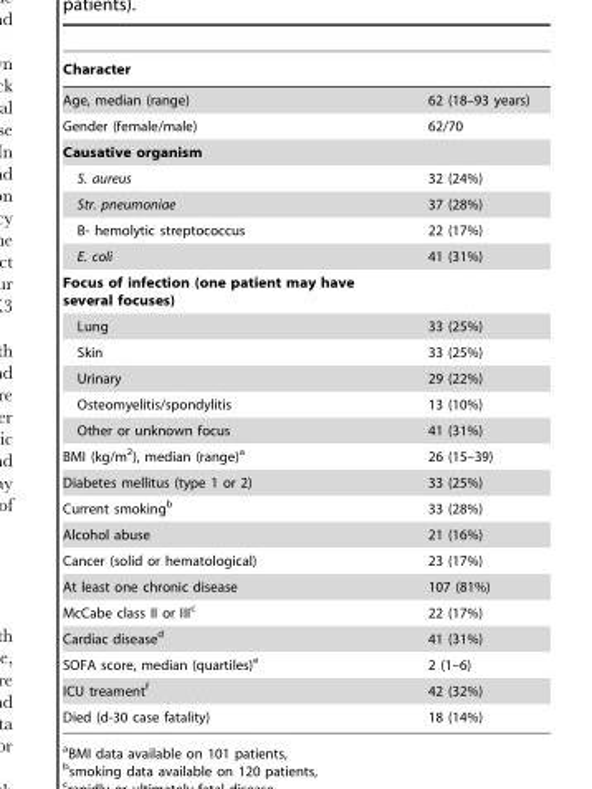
<table><thead><tr><td>Character</td><td></td></tr></thead><tbody><tr><td>Age, median (range)</td><td>62 (18–93 years)</td></tr><tr><td>Gender (female/male)</td><td>62/70</td></tr><tr><td colspan="2">Causative organism</td></tr><tr><td>S. aureus</td><td>32 (24%)</td></tr><tr><td>Str. pneumoniae</td><td>37 (28%)</td></tr><tr><td>B- hemolytic streptococcus</td><td>22 (17%)</td></tr><tr><td>E. coli</td><td>41 (31%)</td></tr><tr><td colspan="2">Focus of infection (one patient may have several focuses)</td></tr><tr><td>Lung</td><td>33 (25%)</td></tr><tr><td>Skin</td><td>33 (25%)</td></tr><tr><td>Urinary</td><td>29 (22%)</td></tr><tr><td>Osteomyelitis/spondylitis</td><td>13 (10%)</td></tr><tr><td>Other or unknown focus</td><td>41 (31%)</td></tr><tr><td>BMI (kg/m<sup>2</sup>), median (range)<sup>a</sup></td><td>26 (15–39)</td></tr><tr><td>Diabetes mellitus (type 1 or 2)</td><td>33 (25%)</td></tr><tr><td>Current smoking<sup>b</sup></td><td>33 (28%)</td></tr><tr><td>Alcohol abuse</td><td>21 (16%)</td></tr><tr><td>Cancer (solid or hematological)</td><td>23 (17%)</td></tr><tr><td>At least one chronic disease</td><td>107 (81%)</td></tr><tr><td>McCabe class II or III<sup>c</sup></td><td>22 (17%)</td></tr><tr><td>Cardiac disease<sup>d</sup></td><td>41 (31%)</td></tr><tr><td>SOFA score, median (quartiles)<sup>e</sup></td><td>2 (1–6)</td></tr><tr><td>ICU treament<sup>f</sup></td><td>42 (32%)</td></tr><tr><td>Died (d-30 case fatality)</td><td>18 (14%)</td></tr></tbody></table>